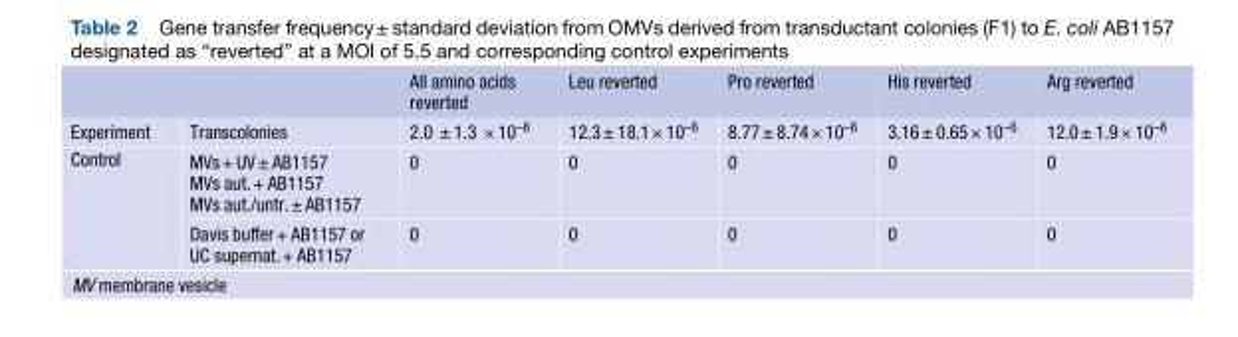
<table><thead><tr><td></td><td></td><td>All amino acids reverted</td><td>Leu reverted</td><td>Pro reverted</td><td>His reverted</td><td>Arg reverted</td></tr></thead><tbody><tr><td>Experiment</td><td>Transcolonies</td><td>2.0 ± 1.3 × 10<sup>–6</sup></td><td>12.3± 18.1× 10<sup>–6</sup></td><td>8.77± 8.74× 10<sup>–6</sup></td><td>3.16± 0.65× 10<sup>–6</sup></td><td>12.0± 1.9× 10<sup>–6</sup></td></tr><tr><td rowspan="2">Control</td><td>MVs+ UV± AB1157 MVs aut.+ AB1157 MVs aut./untr.± AB1157</td><td>0</td><td>0</td><td>0</td><td>0</td><td>0</td></tr><tr><td>Davis buffer+ AB1157 or UC supernat.+ AB1157</td><td>0</td><td>0</td><td>0</td><td>0</td><td>0</td></tr></tbody></table>